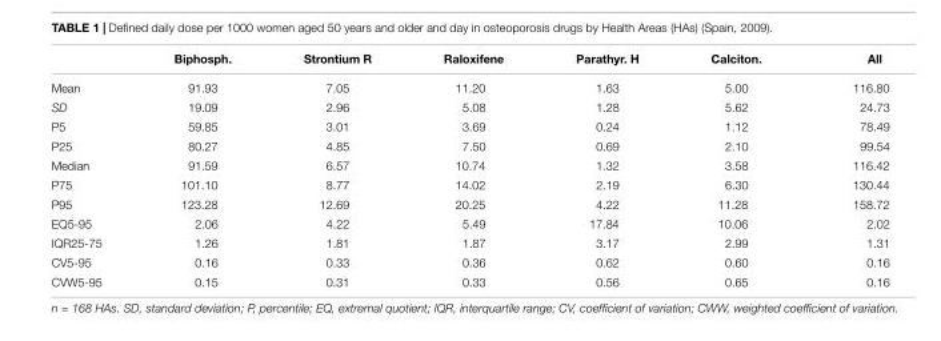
<table><thead><tr><td></td><td>Biphosph.</td><td>Strontium R</td><td>Raloxifene</td><td>Parathyr. H</td><td>Calciton.</td><td>All</td></tr></thead><tbody><tr><td>Mean</td><td>91.93</td><td>7.05</td><td>11.20</td><td>1.63</td><td>5.00</td><td>116.80</td></tr><tr><td>SD</td><td>19.09</td><td>2.96</td><td>5.08</td><td>1.28</td><td>5.62</td><td>24.73</td></tr><tr><td>P5</td><td>59.85</td><td>3.01</td><td>3.69</td><td>0.24</td><td>1.12</td><td>78.49</td></tr><tr><td>P25</td><td>80.27</td><td>4.85</td><td>7.50</td><td>0.69</td><td>2.10</td><td>99.54</td></tr><tr><td>Median</td><td>91.59</td><td>6.57</td><td>10.74</td><td>1.32</td><td>3.58</td><td>116.42</td></tr><tr><td>P75</td><td>101.10</td><td>8.77</td><td>14.02</td><td>2.19</td><td>6.30</td><td>130.44</td></tr><tr><td>P95</td><td>123.28</td><td>12.69</td><td>20.25</td><td>4.22</td><td>11.28</td><td>158.72</td></tr><tr><td>EQ5-95</td><td>2.06</td><td>4.22</td><td>5.49</td><td>17.84</td><td>10.06</td><td>2.02</td></tr><tr><td>IQR25-75</td><td>1.26</td><td>1.81</td><td>1.87</td><td>3.17</td><td>2.99</td><td>1.31</td></tr><tr><td>CV5-95</td><td>0.16</td><td>0.33</td><td>0.36</td><td>0.62</td><td>0.60</td><td>0.16</td></tr><tr><td>CVW5-95</td><td>0.15</td><td>0.31</td><td>0.33</td><td>0.56</td><td>0.65</td><td>0.16</td></tr></tbody></table>